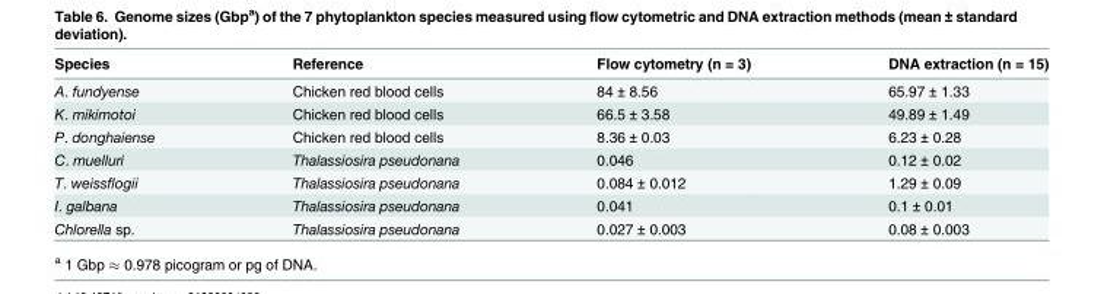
<table><thead><tr><td>Species</td><td>Reference</td><td>Flow cytometry (n = 3)</td><td>DNA extraction (n = 15)</td></tr></thead><tbody><tr><td>A. fundyense</td><td>Chicken red blood cells</td><td>84 ± 8.56</td><td>65.97 ± 1.33</td></tr><tr><td>K. mikimotoi</td><td>Chicken red blood cells</td><td>66.5 ± 3.58</td><td>49.89 ± 1.49</td></tr><tr><td>P. donghaiense</td><td>Chicken red blood cells</td><td>8.36 ± 0.03</td><td>6.23 ± 0.28</td></tr><tr><td>C. muelluri</td><td>Thalassiosira pseudonana</td><td>0.046</td><td>0.12 ± 0.02</td></tr><tr><td>T. weissflogii</td><td>Thalassiosira pseudonana</td><td>0.084 ± 0.012</td><td>1.29 ± 0.09</td></tr><tr><td>I. galbana</td><td>Thalassiosira pseudonana</td><td>0.041</td><td>0.1 ± 0.01</td></tr><tr><td>Chlorella sp.</td><td>Thalassiosira pseudonana</td><td>0.027 ± 0.003</td><td>0.08 ± 0.003</td></tr></tbody></table>